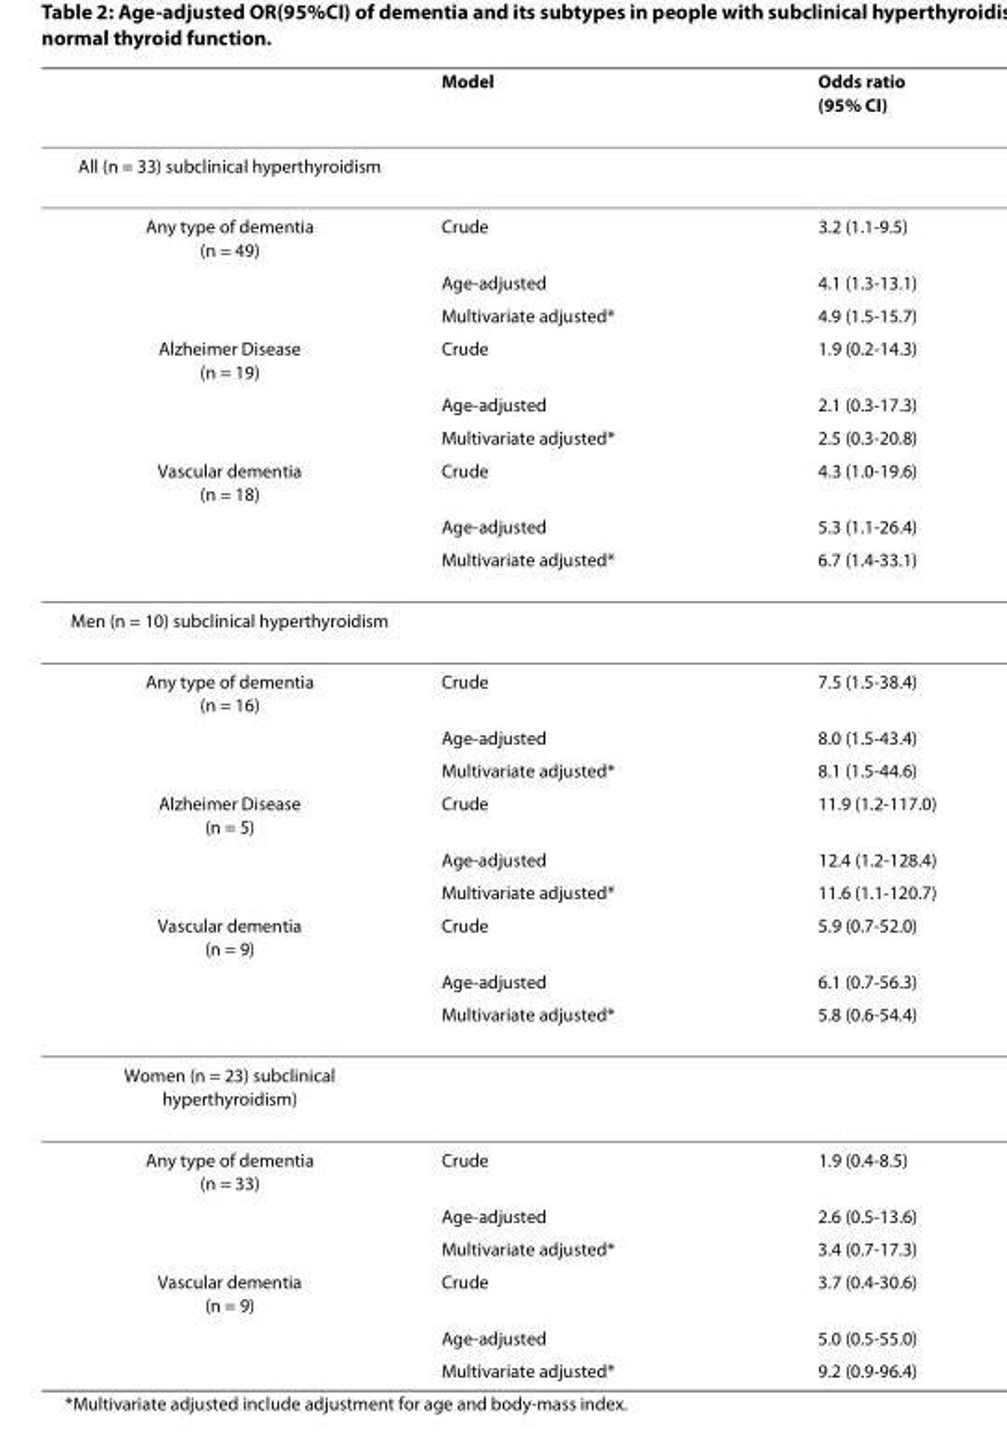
<table><thead><tr><td></td><td>Model</td><td>Odds ratio (95% CI)</td></tr></thead><tbody><tr><td colspan="3">All (n = 33) subclinical hyperthyroidism</td></tr><tr><td rowspan="3">Any type of dementia (n = 49)</td><td>Crude</td><td>3.2 (1.1-9.5)</td></tr><tr><td>Age-adjusted</td><td>4.1 (1.3-13.1)</td></tr><tr><td>Multivariate adjusted*</td><td>4.9 (1.5-15.7)</td></tr><tr><td rowspan="3">Alzheimer Disease (n = 19)</td><td>Crude</td><td>1.9 (0.2-14.3)</td></tr><tr><td>Age-adjusted</td><td>2.1 (0.3-17.3)</td></tr><tr><td>Multivariate adjusted*</td><td>2.5 (0.3-20.8)</td></tr><tr><td rowspan="3">Vascular dementia (n = 18)</td><td>Crude</td><td>4.3 (1.0-19.6)</td></tr><tr><td>Age-adjusted</td><td>5.3 (1.1-26.4)</td></tr><tr><td>Multivariate adjusted*</td><td>6.7 (1.4-33.1)</td></tr><tr><td colspan="3">Men (n = 10) subclinical hyperthyroidism</td></tr><tr><td rowspan="3">Any type of dementia (n = 16)</td><td>Crude</td><td>7.5 (1.5-38.4)</td></tr><tr><td>Age-adjusted</td><td>8.0 (1.5-43.4)</td></tr><tr><td>Multivariate adjusted*</td><td>8.1 (1.5-44.6)</td></tr><tr><td rowspan="3">Alzheimer Disease (n = 5)</td><td>Crude</td><td>11.9 (1.2-117.0)</td></tr><tr><td>Age-adjusted</td><td>12.4 (1.2-128.4)</td></tr><tr><td>Multivariate adjusted*</td><td>11.6 (1.1-120.7)</td></tr><tr><td rowspan="3">Vascular dementia (n = 9)</td><td>Crude</td><td>5.9 (0.7-52.0)</td></tr><tr><td>Age-adjusted</td><td>6.1 (0.7-56.3)</td></tr><tr><td>Multivariate adjusted*</td><td>5.8 (0.6-54.4)</td></tr><tr><td colspan="3">Women (n = 23) subclinical hyperthyroidism)</td></tr><tr><td rowspan="3">Any type of dementia (n = 33)</td><td>Crude</td><td>1.9 (0.4-8.5)</td></tr><tr><td>Age-adjusted</td><td>2.6 (0.5-13.6)</td></tr><tr><td>Multivariate adjusted*</td><td>3.4 (0.7-17.3)</td></tr><tr><td rowspan="3">Vascular dementia (n = 9)</td><td>Crude</td><td>3.7 (0.4-30.6)</td></tr><tr><td>Age-adjusted</td><td>5.0 (0.5-55.0)</td></tr><tr><td>Multivariate adjusted*</td><td>9.2 (0.9-96.4)</td></tr></tbody></table>